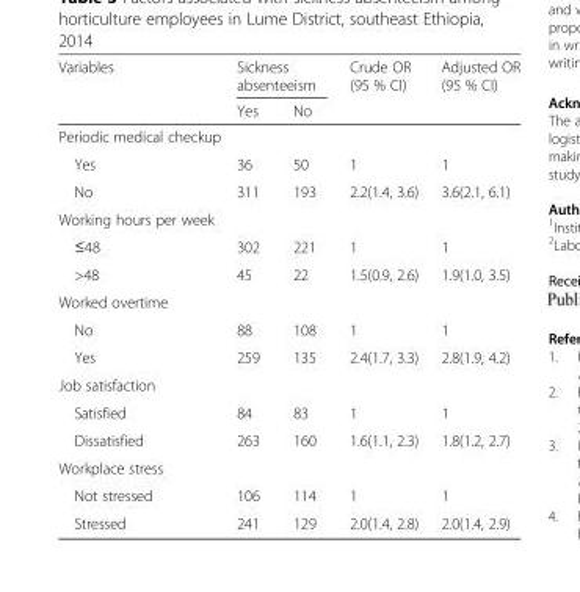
<table><thead><tr><td rowspan="2">Variables</td><td colspan="2">Sickness absenteeism</td><td rowspan="2">Crude OR (95 % CI)</td><td rowspan="2">Adjusted OR (95 % CI)</td></tr><tr><td>Yes</td><td>No</td></tr></thead><tbody><tr><td colspan="5">Periodic medical checkup</td></tr><tr><td>Yes</td><td>36</td><td>50</td><td>1</td><td>1</td></tr><tr><td>No</td><td>311</td><td>193</td><td>2.2(1.4, 3.6)</td><td>3.6(2.1, 6.1)</td></tr><tr><td colspan="5">Working hours per week</td></tr><tr><td>≤48</td><td>302</td><td>221</td><td>1</td><td>1</td></tr><tr><td>&gt;48</td><td>45</td><td>22</td><td>1.5(0.9, 2.6)</td><td>1.9(1.0, 3.5)</td></tr><tr><td colspan="5">Worked overtime</td></tr><tr><td>No</td><td>88</td><td>108</td><td>1</td><td>1</td></tr><tr><td>Yes</td><td>259</td><td>135</td><td>2.4(1.7, 3.3)</td><td>2.8(1.9, 4.2)</td></tr><tr><td colspan="5">Job satisfaction</td></tr><tr><td>Satisfied</td><td>84</td><td>83</td><td>1</td><td>1</td></tr><tr><td>Dissatisfied</td><td>263</td><td>160</td><td>1.6(1.1, 2.3)</td><td>1.8(1.2, 2.7)</td></tr><tr><td colspan="5">Workplace stress</td></tr><tr><td>Not stressed</td><td>106</td><td>114</td><td>1</td><td>1</td></tr><tr><td>Stressed</td><td>241</td><td>129</td><td>2.0(1.4, 2.8)</td><td>2.0(1.4, 2.9)</td></tr></tbody></table>